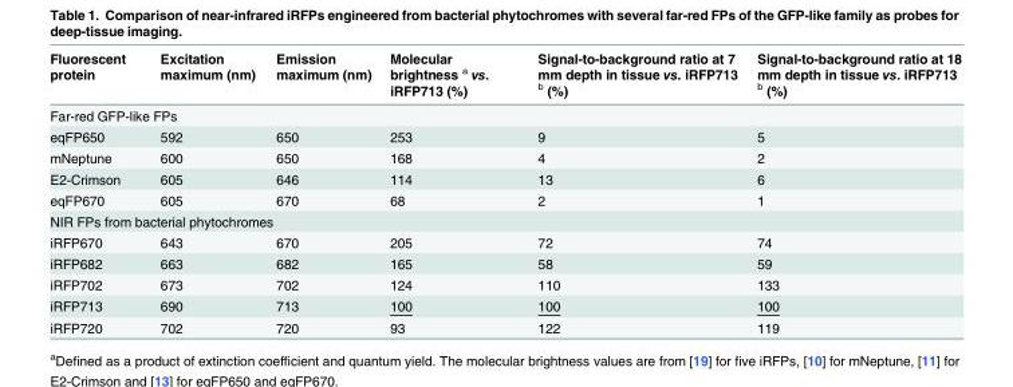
<table><thead><tr><td>Fluorescent protein</td><td>Excitation maximum (nm)</td><td>Emission maximum (nm)</td><td>Molecular brightness <sup>a</sup> vs. iRFP713 (%)</td><td>Signal-to-background ratio at 7 mm depth in tissue vs. iRFP713 <sup>b</sup> (%)</td><td>Signal-to-background ratio at 18 mm depth in tissue vs. iRFP713 <sup>b</sup> (%)</td></tr></thead><tbody><tr><td colspan="6">Far-red GFP-like FPs</td></tr><tr><td>eqFP650</td><td>592</td><td>650</td><td>253</td><td>9</td><td>5</td></tr><tr><td>mNeptune</td><td>600</td><td>650</td><td>168</td><td>4</td><td>2</td></tr><tr><td>E2-Crimson</td><td>605</td><td>646</td><td>114</td><td>13</td><td>6</td></tr><tr><td>eqFP670</td><td>605</td><td>670</td><td>68</td><td>2</td><td>1</td></tr><tr><td colspan="6">NIR FPs from bacterial phytochromes</td></tr><tr><td>iRFP670</td><td>643</td><td>670</td><td>205</td><td>72</td><td>74</td></tr><tr><td>iRFP682</td><td>663</td><td>682</td><td>165</td><td>58</td><td>59</td></tr><tr><td>iRFP702</td><td>673</td><td>702</td><td>124</td><td>110</td><td>133</td></tr><tr><td>iRFP713</td><td>690</td><td>713</td><td>100</td><td>100</td><td>100</td></tr><tr><td>iRFP720</td><td>702</td><td>720</td><td>93</td><td>122</td><td>119</td></tr></tbody></table>